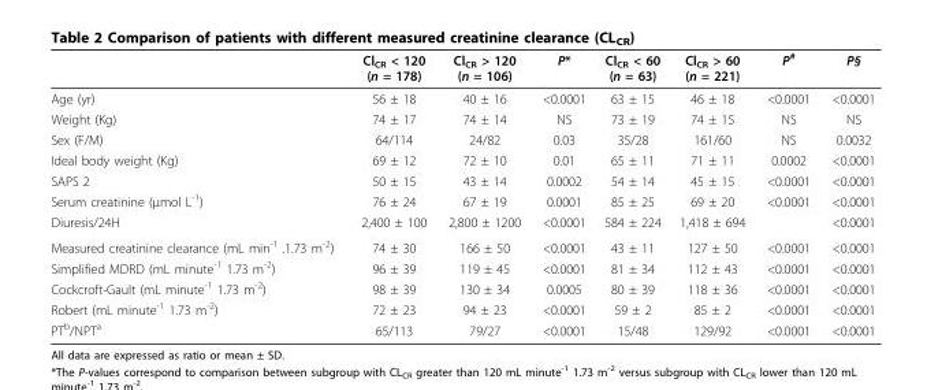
<table><thead><tr><td></td><td>Cl<sub>CR</sub> &lt; 120 (n = 178)</td><td>Cl<sub>CR</sub> &gt; 120 (n = 106)</td><td>P*</td><td>Cl<sub>CR</sub> &lt; 60 (n = 63)</td><td>Cl<sub>CR</sub> &gt; 60 (n = 221)</td><td>P<sup>#</sup></td><td>P§</td></tr></thead><tbody><tr><td>Age (yr)</td><td>56 ± 18</td><td>40 ± 16</td><td>&lt;0.0001</td><td>63 ± 15</td><td>46 ± 18</td><td>&lt;0.0001</td><td>&lt;0.0001</td></tr><tr><td>Weight (Kg)</td><td>74 ± 17</td><td>74 ± 14</td><td>NS</td><td>73 ± 19</td><td>74 ± 15</td><td>NS</td><td>NS</td></tr><tr><td>Sex (F/M)</td><td>64/114</td><td>24/82</td><td>0.03</td><td>35/28</td><td>161/60</td><td>NS</td><td>0.0032</td></tr><tr><td>Ideal body weight (Kg)</td><td>69 ± 12</td><td>72 ± 10</td><td>0.01</td><td>65 ± 11</td><td>71 ± 11</td><td>0.0002</td><td>&lt;0.0001</td></tr><tr><td>SAPS 2</td><td>50 ± 15</td><td>43 ± 14</td><td>0.0002</td><td>54 ± 14</td><td>45 ± 15</td><td>&lt;0.0001</td><td>&lt;0.0001</td></tr><tr><td>Serum creatinine (μmol L<sup>-1</sup>)</td><td>76 ± 24</td><td>67 ± 19</td><td>0.0001</td><td>85 ± 25</td><td>69 ± 20</td><td>&lt;0.0001</td><td>&lt;0.0001</td></tr><tr><td>Diuresis/24H</td><td>2,400 ± 100</td><td>2,800 ± 1200</td><td>&lt;0.0001</td><td>584 ± 224</td><td>1,418 ± 694</td><td></td><td>&lt;0.0001</td></tr><tr><td>Measured creatinine clearance (mL min<sup>-1</sup> .1.73 m<sup>-2</sup>)</td><td>74 ± 30</td><td>166 ± 50</td><td>&lt;0.0001</td><td>43 ± 11</td><td>127 ± 50</td><td>&lt;0.0001</td><td>&lt;0.0001</td></tr><tr><td>Simplified MDRD (mL minute<sup>-1</sup> 1.73 m<sup>-2</sup>)</td><td>96 ± 39</td><td>119 ± 45</td><td>&lt;0.0001</td><td>81 ± 34</td><td>112 ± 43</td><td>&lt;0.0001</td><td>&lt;0.0001</td></tr><tr><td>Cockcroft-Gault (mL minute<sup>-1</sup> 1.73 m<sup>-2</sup>)</td><td>98 ± 39</td><td>130 ± 34</td><td>0.0005</td><td>80 ± 39</td><td>118 ± 36</td><td>&lt;0.0001</td><td>&lt;0.0001</td></tr><tr><td>Robert (mL minute<sup>-1</sup> 1.73 m<sup>-2</sup>)</td><td>72 ± 23</td><td>94 ± 23</td><td>&lt;0.0001</td><td>59 ± 2</td><td>85 ± 2</td><td>&lt;0.0001</td><td>&lt;0.0001</td></tr><tr><td>PT<sup>b</sup>/NPT<sup>a</sup></td><td>65/113</td><td>79/27</td><td>&lt;0.0001</td><td>15/48</td><td>129/92</td><td>&lt;0.0001</td><td>&lt;0.0001</td></tr></tbody></table>